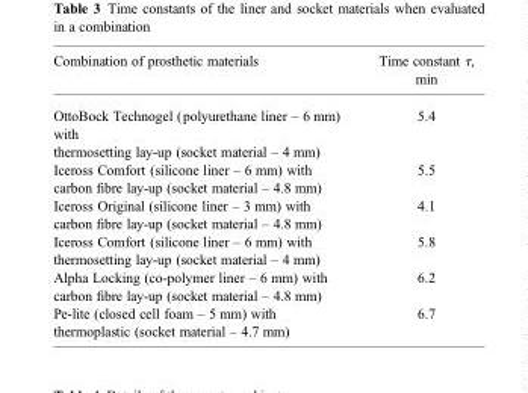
<table><thead><tr><td>Combination of prosthetic materials</td><td>Time constant τ, min</td></tr></thead><tbody><tr><td>OttoBock Technogel (polyurethane liner – 6 mm) with</td><td rowspan="2">5.4</td></tr><tr><td>thermosetting lay-up (socket material – 4 mm)</td></tr><tr><td>Iceross Comfort (silicone liner – 6 mm) with</td><td rowspan="2">5.5</td></tr><tr><td>carbon fibre lay-up (socket material – 4.8 mm)</td></tr><tr><td>Iceross Original (silicone liner – 3 mm) with</td><td rowspan="2">4.1</td></tr><tr><td>carbon fibre lay-up (socket material – 4.8 mm)</td></tr><tr><td>Iceross Comfort (silicone liner – 6 mm) with</td><td rowspan="2">5.8</td></tr><tr><td>thermosetting lay-up (socket material – 4 mm)</td></tr><tr><td>Alpha Locking (co-polymer liner – 6 mm) with</td><td rowspan="2">6.2</td></tr><tr><td>carbon fibre lay-up (socket material – 4.8 mm)</td></tr><tr><td>Pe-lite (closed cell foam – 5 mm) with</td><td rowspan="2">6.7</td></tr><tr><td>thermoplastic (socket material – 4.7 mm)</td></tr></tbody></table>